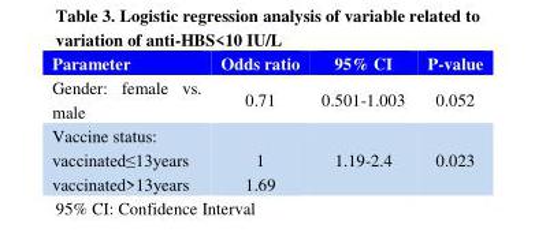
<table><thead><tr><td>Parameter</td><td>Odds ratio</td><td>95% CI</td><td>P-value</td></tr></thead><tbody><tr><td>Gender: female vs. male</td><td>0.71</td><td>0.501-1.003</td><td>0.052</td></tr><tr><td>Vaccine status: vaccinated≤13years vaccinated&gt;13years</td><td>1 1.69</td><td>1.19-2.4</td><td>0.023</td></tr></tbody></table>